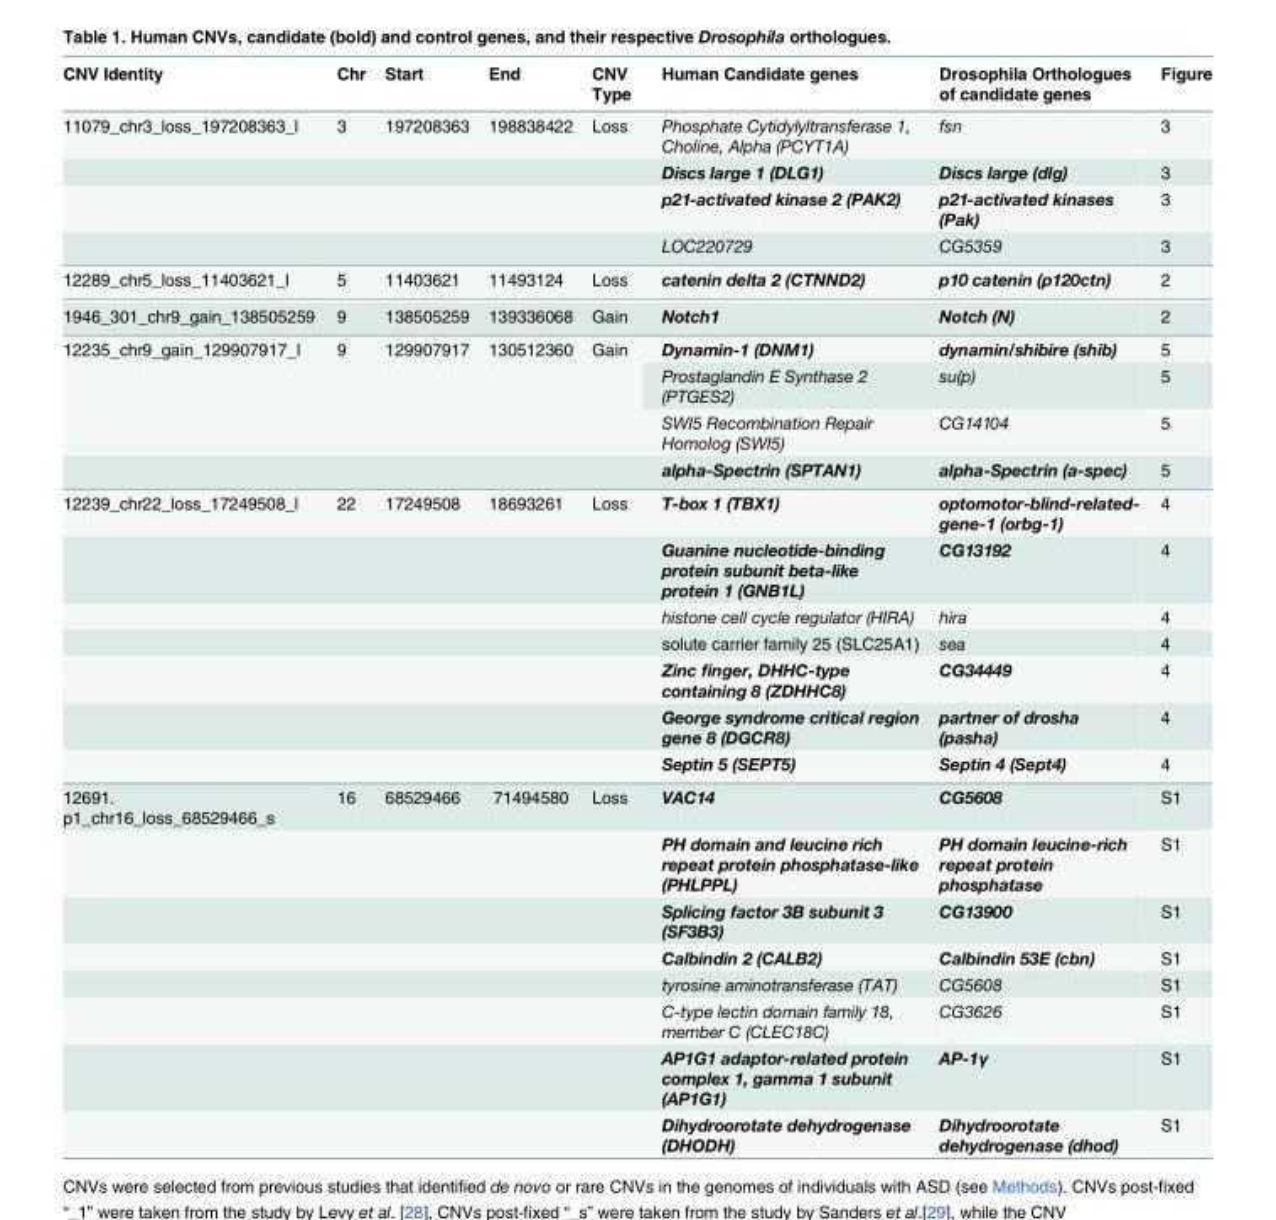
<table><thead><tr><td>CNV Identity</td><td>Chr</td><td>Start</td><td>End</td><td>CNV Type</td><td>Human Candidate genes</td><td>Drosophila Orthologues of candidate genes</td><td>Figure</td></tr></thead><tbody><tr><td rowspan="4">11079_chr3_loss_197208363_l</td><td>3</td><td>197208363</td><td>198838422</td><td>Loss</td><td>Phosphate Cytidylyltransferase 1, Choline, Alpha (PCYT1A)</td><td>fsn</td><td>3</td></tr><tr><td></td><td></td><td></td><td></td><td>Discs large 1 (DLG1)</td><td>Discs large (dlg)</td><td>3</td></tr><tr><td></td><td></td><td></td><td></td><td>p21-activated kinase 2 (PAK2)</td><td>p21-activated kinases (Pak)</td><td>3</td></tr><tr><td></td><td></td><td></td><td></td><td>LOC220729</td><td>CG5359</td><td>3</td></tr><tr><td>12289_chr5_loss_11403621_l</td><td>5</td><td>11403621</td><td>11493124</td><td>Loss</td><td>catenin delta 2 (CTNND2)</td><td>p10 catenin (p120ctn)</td><td>2</td></tr><tr><td>1946_301_chr9_gain_138505259</td><td>9</td><td>138505259</td><td>139336068</td><td>Gain</td><td>Notch1</td><td>Notch (N)</td><td>2</td></tr><tr><td rowspan="4">12235_chr9_gain_129907917_l</td><td rowspan="2">9</td><td rowspan="2">129907917</td><td rowspan="2">130512360</td><td rowspan="2">Gain</td><td>Dynamin-1 (DNM1)</td><td>dynamin/shibire (shib)</td><td>5</td></tr><tr><td>Prostaglandin E Synthase 2 (PTGES2)</td><td>su(p)</td><td>5</td></tr><tr><td></td><td></td><td></td><td></td><td>SWI5 Recombination Repair Homolog (SWI5)</td><td>CG14104</td><td>5</td></tr><tr><td></td><td></td><td></td><td></td><td>alpha-Spectrin (SPTAN1)</td><td>alpha-Spectrin (a-spec)</td><td>5</td></tr><tr><td rowspan="7">12239_chr22_loss_17249508_l</td><td>22</td><td>17249508</td><td>18693261</td><td>Loss</td><td>T-box 1 (TBX1)</td><td>optomotor-blind-related- gene-1 (orbg-1)</td><td>4</td></tr><tr><td></td><td></td><td></td><td></td><td>Guanine nucleotide-binding protein subunit beta-like protein 1 (GNB1L)</td><td>CG13192</td><td>4</td></tr><tr><td></td><td></td><td></td><td></td><td>histone cell cycle regulator (HIRA)</td><td>hira</td><td>4</td></tr><tr><td></td><td></td><td></td><td></td><td>solute carrier family 25 (SLC25A1)</td><td>sea</td><td>4</td></tr><tr><td></td><td></td><td></td><td></td><td>Zinc finger, DHHC-type containing 8 (ZDHHC8)</td><td>CG34449</td><td>4</td></tr><tr><td></td><td></td><td></td><td></td><td>George syndrome critical region gene 8 (DGCR8)</td><td>partner of drosha (pasha)</td><td>4</td></tr><tr><td></td><td></td><td></td><td></td><td>Septin 5 (SEPT5)</td><td>Septin 4 (Sept4)</td><td>4</td></tr><tr><td rowspan="8">12691. p1_chr16_loss_68529466_s</td><td>16</td><td>68529466</td><td>71494580</td><td>Loss</td><td>VAC14</td><td>CG5608</td><td>S1</td></tr><tr><td></td><td></td><td></td><td></td><td>PH domain and leucine rich repeat protein phosphatase-like (PHLPPL)</td><td>PH domain leucine-rich repeat protein phosphatase</td><td>S1</td></tr><tr><td></td><td></td><td></td><td></td><td>Splicing factor 3B subunit 3 (SF3B3)</td><td>CG13900</td><td>S1</td></tr><tr><td></td><td></td><td></td><td></td><td>Calbindin 2 (CALB2)</td><td>Calbindin 53E (cbn)</td><td>S1</td></tr><tr><td></td><td></td><td></td><td></td><td>tyrosine aminotransferase (TAT)</td><td>CG5608</td><td>S1</td></tr><tr><td></td><td></td><td></td><td></td><td>C-type lectin domain family 18, member C (CLEC18C)</td><td>CG3626</td><td>S1</td></tr><tr><td></td><td></td><td></td><td></td><td>AP1G1 adaptor-related protein complex 1, gamma 1 subunit (AP1G1)</td><td>AP-1γ</td><td>S1</td></tr><tr><td></td><td></td><td></td><td></td><td>Dihydroorotate dehydrogenase (DHODH)</td><td>Dihydroorotate dehydrogenase (dhod)</td><td>S1</td></tr></tbody></table>